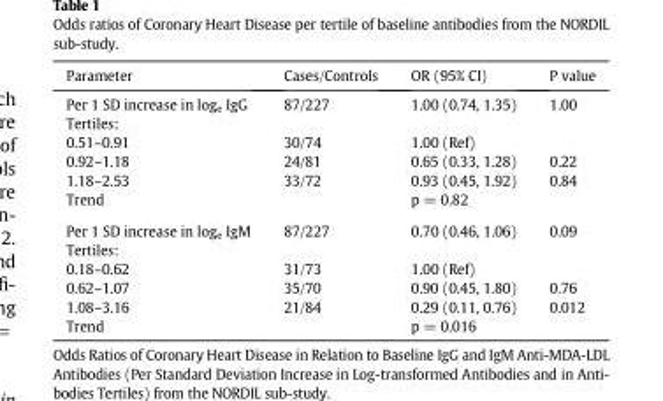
<table><thead><tr><td>Parameter</td><td>Cases/Controls</td><td>OR (95% CI)</td><td>P value</td></tr></thead><tbody><tr><td>Per 1 SD increase in log<sub>e</sub> IgG</td><td>87/227</td><td>1.00 (0.74, 1.35)</td><td>1.00</td></tr><tr><td colspan="4">Tertiles:</td></tr><tr><td>0.51–0.91</td><td>30/74</td><td>1.00 (Ref)</td><td></td></tr><tr><td>0.92–1.18</td><td>24/81</td><td>0.65 (0.33, 1.28)</td><td>0.22</td></tr><tr><td>1.18–2.53</td><td>33/72</td><td>0.93 (0.45, 1.92)</td><td>0.84</td></tr><tr><td>Trend</td><td></td><td>p = 0.82</td><td></td></tr><tr><td>Per 1 SD increase in log<sub>e</sub> IgM</td><td>87/227</td><td>0.70 (0.46, 1.06)</td><td>0.09</td></tr><tr><td colspan="4">Tertiles:</td></tr><tr><td>0.18–0.62</td><td>31/73</td><td>1.00 (Ref)</td><td></td></tr><tr><td>0.62–1.07</td><td>35/70</td><td>0.90 (0.45, 1.80)</td><td>0.76</td></tr><tr><td>1.08–3.16</td><td>21/84</td><td>0.29 (0.11, 0.76)</td><td>0.012</td></tr><tr><td>Trend</td><td></td><td>p = 0.016</td><td></td></tr></tbody></table>